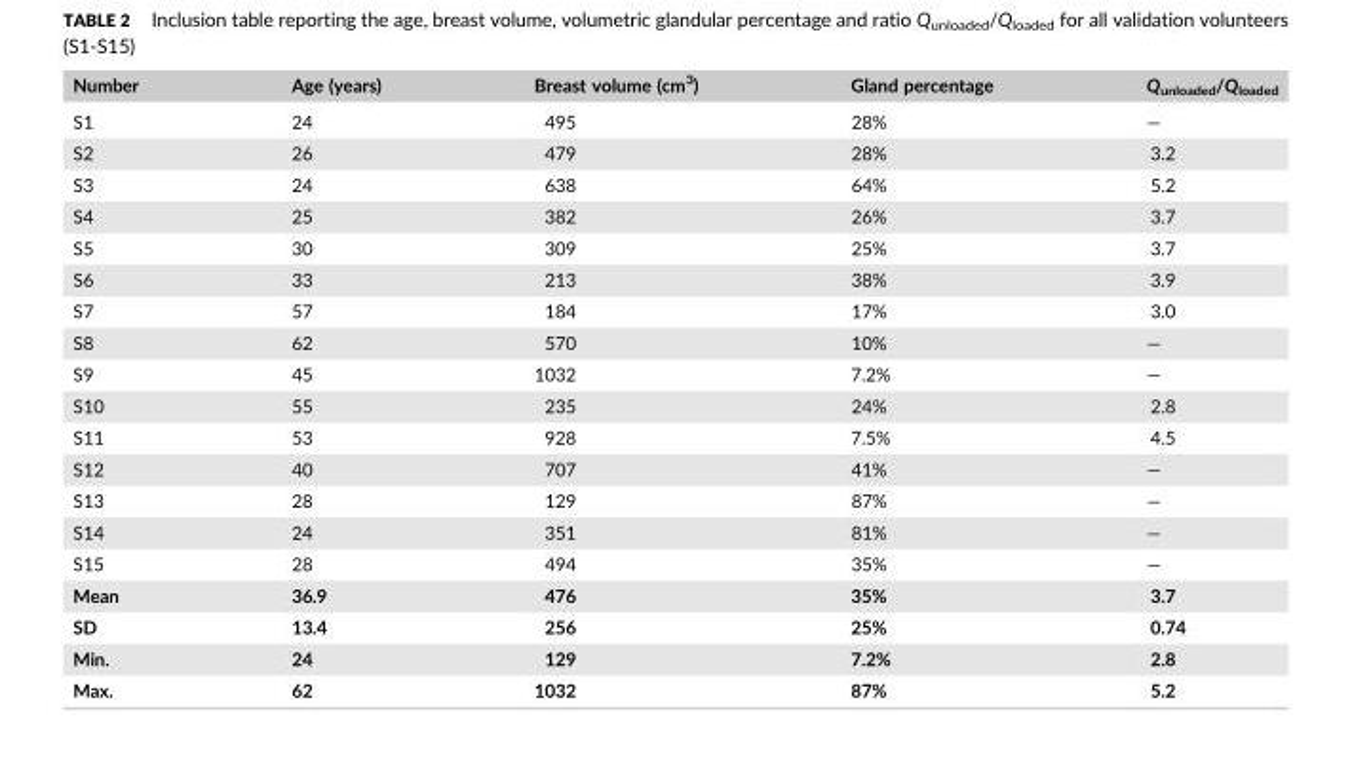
<table><thead><tr><td>Number</td><td>Age (years)</td><td>Breast volume (cm<sup>3</sup>)</td><td>Gland percentage</td><td>Q<sub>unloaded</sub>/Q<sub>loaded</sub></td></tr></thead><tbody><tr><td>S1</td><td>24</td><td>495</td><td>28%</td><td>—</td></tr><tr><td>S2</td><td>26</td><td>479</td><td>28%</td><td>3.2</td></tr><tr><td>S3</td><td>24</td><td>638</td><td>64%</td><td>5.2</td></tr><tr><td>S4</td><td>25</td><td>382</td><td>26%</td><td>3.7</td></tr><tr><td>S5</td><td>30</td><td>309</td><td>25%</td><td>3.7</td></tr><tr><td>S6</td><td>33</td><td>213</td><td>38%</td><td>3.9</td></tr><tr><td>S7</td><td>57</td><td>184</td><td>17%</td><td>3.0</td></tr><tr><td>S8</td><td>62</td><td>570</td><td>10%</td><td>—</td></tr><tr><td>S9</td><td>45</td><td>1032</td><td>7.2%</td><td>—</td></tr><tr><td>S10</td><td>55</td><td>235</td><td>24%</td><td>2.8</td></tr><tr><td>S11</td><td>53</td><td>928</td><td>7.5%</td><td>4.5</td></tr><tr><td>S12</td><td>40</td><td>707</td><td>41%</td><td>—</td></tr><tr><td>S13</td><td>28</td><td>129</td><td>87%</td><td>—</td></tr><tr><td>S14</td><td>24</td><td>351</td><td>81%</td><td>—</td></tr><tr><td>S15</td><td>28</td><td>494</td><td>35%</td><td>—</td></tr><tr><td>Mean</td><td>36.9</td><td>476</td><td>35%</td><td>3.7</td></tr><tr><td>SD</td><td>13.4</td><td>256</td><td>25%</td><td>0.74</td></tr><tr><td>Min.</td><td>24</td><td>129</td><td>7.2%</td><td>2.8</td></tr><tr><td>Max.</td><td>62</td><td>1032</td><td>87%</td><td>5.2</td></tr></tbody></table>